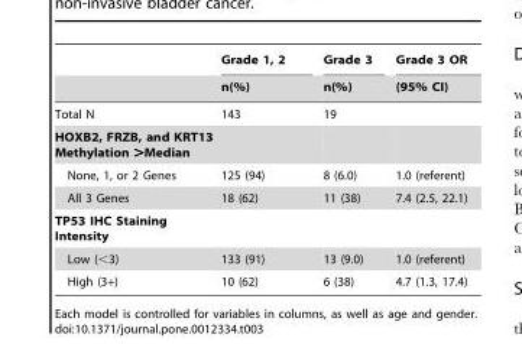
<table><thead><tr><td rowspan="2"></td><td rowspan="2">Grade 1, 2 n(%)</td><td rowspan="2">Grade 3 n(%)</td><td rowspan="2">Grade 3 OR (95% CI)</td></tr><tr></tr></thead><tbody><tr><td>Total N</td><td>143</td><td>19</td><td></td></tr><tr><td colspan="4">HOXB2, FRZB, and KRT13 Methylation &gt;Median</td></tr><tr><td>None, 1, or 2 Genes</td><td>125 (94)</td><td>8 (6.0)</td><td>1.0 (referent)</td></tr><tr><td>All 3 Genes</td><td>18 (62)</td><td>11 (38)</td><td>7.4 (2.5, 22.1)</td></tr><tr><td colspan="4">TP53 IHC Staining Intensity</td></tr><tr><td>Low (&lt;3)</td><td>133 (91)</td><td>13 (9.0)</td><td>1.0 (referent)</td></tr><tr><td>High (3+)</td><td>10 (62)</td><td>6 (38)</td><td>4.7 (1.3, 17.4)</td></tr></tbody></table>